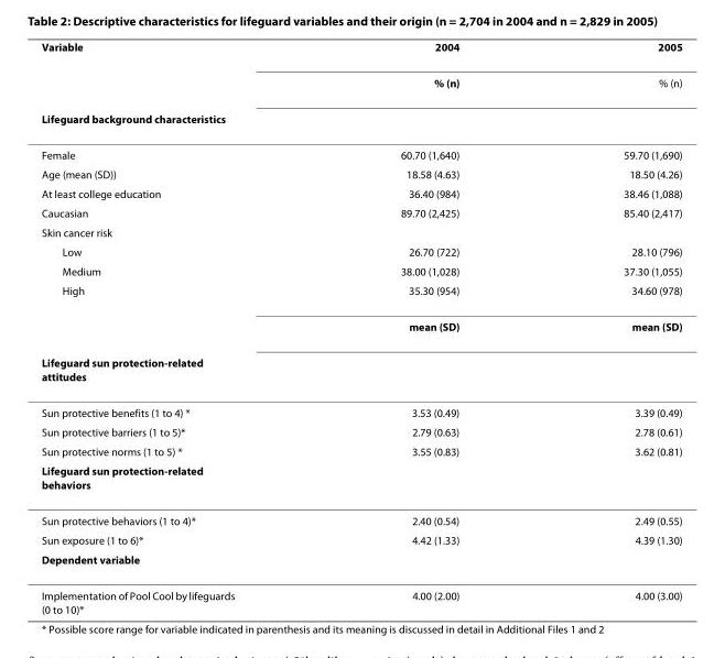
<table><thead><tr><td rowspan="3">Variable Lifeguard background characteristics</td><td rowspan="3">2004 % (n)</td><td rowspan="3">2005 % (n)</td></tr><tr></tr><tr></tr></thead><tbody><tr><td>Female</td><td>60.70 (1,640)</td><td>59.70 (1,690)</td></tr><tr><td>Age (mean (SD))</td><td>18.58 (4.63)</td><td>18.50 (4.26)</td></tr><tr><td>At least college education</td><td>36.40 (984)</td><td>38.46 (1,088)</td></tr><tr><td>Caucasian</td><td>89.70 (2,425)</td><td>85.40 (2,417)</td></tr><tr><td colspan="3">Skin cancer risk</td></tr><tr><td>Low</td><td>26.70 (722)</td><td>28.10 (796)</td></tr><tr><td>Medium</td><td>38.00 (1,028)</td><td>37.30 (1,055)</td></tr><tr><td rowspan="2">High</td><td>35.30 (954)</td><td>34.60 (978)</td></tr><tr><td>mean (SD)</td><td>mean (SD)</td></tr><tr><td colspan="3">Lifeguard sun protection-related attitudes</td></tr><tr><td>Sun protective benefits (1 to 4) *</td><td>3.53 (0.49)</td><td>3.39 (0.49)</td></tr><tr><td>Sun protective barriers (1 to 5)*</td><td>2.79 (0.63)</td><td>2.78 (0.61)</td></tr><tr><td>Sun protective norms (1 to 5) *</td><td>3.55 (0.83)</td><td>3.62 (0.81)</td></tr><tr><td colspan="3">Lifeguard sun protection-related behaviors</td></tr><tr><td>Sun protective behaviors (1 to 4)*</td><td>2.40 (0.54)</td><td>2.49 (0.55)</td></tr><tr><td>Sun exposure (1 to 6)*</td><td>4.42 (1.33)</td><td>4.39 (1.30)</td></tr><tr><td colspan="3">Dependent variable</td></tr><tr><td>Implementation of Pool Cool by lifeguards (0 to 10)*</td><td>4.00 (2.00)</td><td>4.00 (3.00)</td></tr></tbody></table>